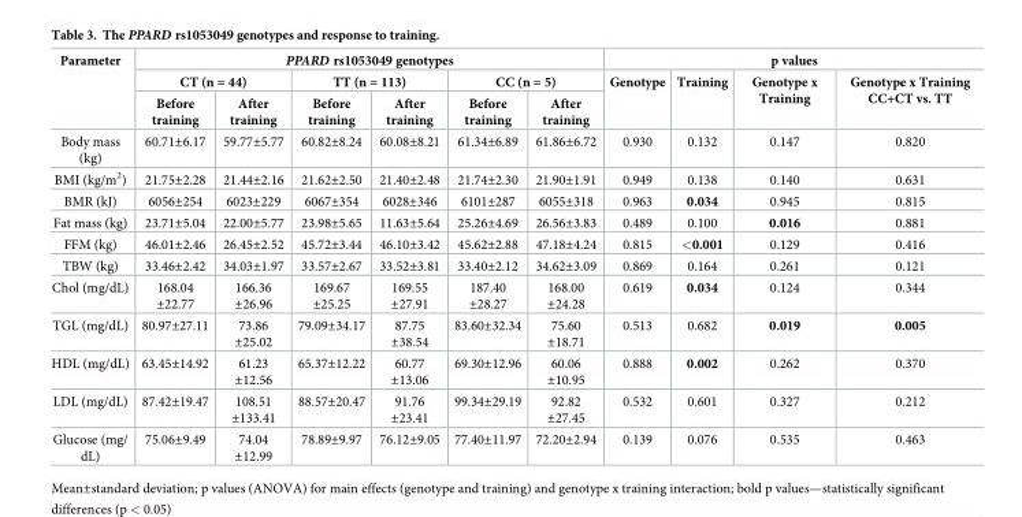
<table><thead><tr><td rowspan="3">Parameter</td><td colspan="6">PPARD rs1053049 genotypes</td><td colspan="4">p values</td></tr><tr><td colspan="2">CT (n = 44)</td><td colspan="2">TT (n = 113)</td><td colspan="2">CC (n = 5)</td><td rowspan="2">Genotype</td><td rowspan="2">Training</td><td rowspan="2">Genotype x Training</td><td rowspan="2">Genotype x Training CC+CT vs. TT</td></tr><tr><td>Before training</td><td>After training</td><td>Before training</td><td>After training</td><td>Before training</td><td>After training</td></tr></thead><tbody><tr><td>Body mass (kg)</td><td>60.71±6.17</td><td>59.77±5.77</td><td>60.82±8.24</td><td>60.08±8.21</td><td>61.34±6.89</td><td>61.86±6.72</td><td>0.930</td><td>0.132</td><td>0.147</td><td>0.820</td></tr><tr><td>BMI (kg/m<sup>2</sup>)</td><td>21.75±2.28</td><td>21.44±2.16</td><td>21.62±2.50</td><td>21.40±2.48</td><td>21.74±2.30</td><td>21.90±1.91</td><td>0.949</td><td>0.138</td><td>0.140</td><td>0.631</td></tr><tr><td>BMR (kJ)</td><td>6056±254</td><td>6023±229</td><td>6067±354</td><td>6028±346</td><td>6101±287</td><td>6055±318</td><td>0.963</td><td>0.034</td><td>0.945</td><td>0.815</td></tr><tr><td>Fat mass (kg)</td><td>23.71±5.04</td><td>22.00±5.77</td><td>23.98±5.65</td><td>11.63±5.64</td><td>25.26±4.69</td><td>26.56±3.83</td><td>0.489</td><td>0.100</td><td>0.016</td><td>0.881</td></tr><tr><td>FFM (kg)</td><td>46.01±2.46</td><td>26.45±2.52</td><td>45.72±3.44</td><td>46.10±3.42</td><td>45.62±2.88</td><td>47.18±4.24</td><td>0.815</td><td>&lt;0.001</td><td>0.129</td><td>0.416</td></tr><tr><td>TBW (kg)</td><td>33.46±2.42</td><td>34.03±1.97</td><td>33.57±2.67</td><td>33.52±3.81</td><td>33.40±2.12</td><td>34.62±3.09</td><td>0.869</td><td>0.164</td><td>0.261</td><td>0.121</td></tr><tr><td>Chol (mg/dL)</td><td>168.04 ±22.77</td><td>166.36 ±26.96</td><td>169.67 ±25.25</td><td>169.55 ±27.91</td><td>187.40 ±28.27</td><td>168.00 ±24.28</td><td>0.619</td><td>0.034</td><td>0.124</td><td>0.344</td></tr><tr><td>TGL (mg/dL)</td><td>80.97±27.11</td><td>73.86 ±25.02</td><td>79.09±34.17</td><td>87.75 ±38.54</td><td>83.60±32.34</td><td>75.60 ±18.71</td><td>0.513</td><td>0.682</td><td>0.019</td><td>0.005</td></tr><tr><td>HDL (mg/dL)</td><td>63.45±14.92</td><td>61.23 ±12.56</td><td>65.37±12.22</td><td>60.77 ±13.06</td><td>69.30±12.96</td><td>60.06 ±10.95</td><td>0.888</td><td>0.002</td><td>0.262</td><td>0.370</td></tr><tr><td>LDL (mg/dL)</td><td>87.42±19.47</td><td>108.51 ±133.41</td><td>88.57±20.47</td><td>91.76 ±23.41</td><td>99.34±29.19</td><td>92.82 ±27.45</td><td>0.532</td><td>0.601</td><td>0.327</td><td>0.212</td></tr><tr><td>Glucose (mg/ dL)</td><td>75.06±9.49</td><td>74.04 ±12.99</td><td>78.89±9.97</td><td>76.12±9.05</td><td>77.40±11.97</td><td>72.20±2.94</td><td>0.139</td><td>0.076</td><td>0.535</td><td>0.463</td></tr></tbody></table>